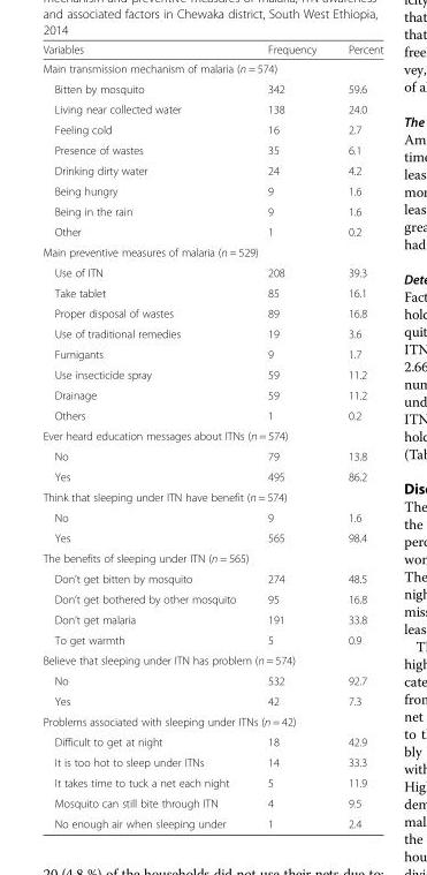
<table><thead><tr><td>Variables</td><td>Frequency</td><td>Percent</td></tr></thead><tbody><tr><td colspan="3">Main transmission mechanism of malaria (n = 574)</td></tr><tr><td>Bitten by mosquito</td><td>342</td><td>59.6</td></tr><tr><td>Living near collected water</td><td>138</td><td>24.0</td></tr><tr><td>Feeling cold</td><td>16</td><td>2.7</td></tr><tr><td>Presence of wastes</td><td>35</td><td>6.1</td></tr><tr><td>Drinking dirty water</td><td>24</td><td>4.2</td></tr><tr><td>Being hungry</td><td>9</td><td>1.6</td></tr><tr><td>Being in the rain</td><td>9</td><td>1.6</td></tr><tr><td>Other</td><td>1</td><td>0.2</td></tr><tr><td colspan="3">Main preventive measures of malaria (n = 529)</td></tr><tr><td>Use of ITN</td><td>208</td><td>39.3</td></tr><tr><td>Take tablet</td><td>85</td><td>16.1</td></tr><tr><td>Proper disposal of wastes</td><td>89</td><td>16.8</td></tr><tr><td>Use of traditional remedies</td><td>19</td><td>3.6</td></tr><tr><td>Fumigants</td><td>9</td><td>1.7</td></tr><tr><td>Use insecticide spray</td><td>59</td><td>11.2</td></tr><tr><td>Drainage</td><td>59</td><td>11.2</td></tr><tr><td>Others</td><td>1</td><td>0.2</td></tr><tr><td colspan="3">Ever heard education messages about ITNs (n = 574)</td></tr><tr><td>No</td><td>79</td><td>13.8</td></tr><tr><td>Yes</td><td>495</td><td>86.2</td></tr><tr><td colspan="3">Think that sleeping under ITN have benefit (n = 574)</td></tr><tr><td>No</td><td>9</td><td>1.6</td></tr><tr><td>Yes</td><td>565</td><td>98.4</td></tr><tr><td colspan="3">The benefits of sleeping under ITN (n = 565)</td></tr><tr><td>Don’t get bitten by mosquito</td><td>274</td><td>48.5</td></tr><tr><td>Don’t get bothered by other mosquito</td><td>95</td><td>16.8</td></tr><tr><td>Don’t get malaria</td><td>191</td><td>33.8</td></tr><tr><td>To get warmth</td><td>5</td><td>0.9</td></tr><tr><td colspan="3">Believe that sleeping under ITN has problem (n = 574)</td></tr><tr><td>No</td><td>532</td><td>92.7</td></tr><tr><td>Yes</td><td>42</td><td>7.3</td></tr><tr><td colspan="3">Problems associated with sleeping under ITNs (n = 42)</td></tr><tr><td>Difficult to get at night</td><td>18</td><td>42.9</td></tr><tr><td>It is too hot to sleep under ITNs</td><td>14</td><td>33.3</td></tr><tr><td>It takes time to tuck a net each night</td><td>5</td><td>11.9</td></tr><tr><td>Mosquito can still bite through ITN</td><td>4</td><td>9.5</td></tr><tr><td>No enough air when sleeping under</td><td>1</td><td>2.4</td></tr></tbody></table>